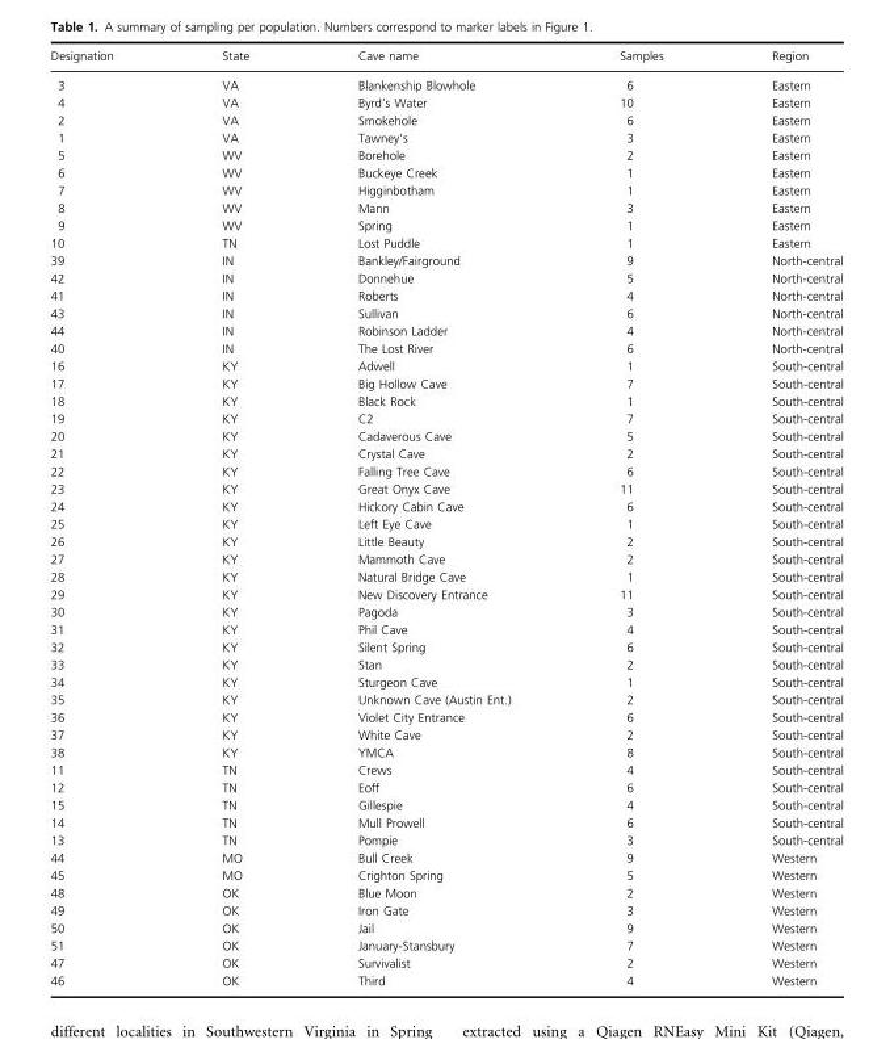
<table><thead><tr><td>Designation</td><td>State</td><td>Cave name</td><td>Samples</td><td>Region</td></tr></thead><tbody><tr><td>3</td><td>VA</td><td>Blankenship Blowhole</td><td>6</td><td>Eastern</td></tr><tr><td>4</td><td>VA</td><td>Byrd’s Water</td><td>10</td><td>Eastern</td></tr><tr><td>2</td><td>VA</td><td>Smokehole</td><td>6</td><td>Eastern</td></tr><tr><td>1</td><td>VA</td><td>Tawney’s</td><td>3</td><td>Eastern</td></tr><tr><td>5</td><td>WV</td><td>Borehole</td><td>2</td><td>Eastern</td></tr><tr><td>6</td><td>WV</td><td>Buckeye Creek</td><td>1</td><td>Eastern</td></tr><tr><td>7</td><td>WV</td><td>Higginbotham</td><td>1</td><td>Eastern</td></tr><tr><td>8</td><td>WV</td><td>Mann</td><td>3</td><td>Eastern</td></tr><tr><td>9</td><td>WV</td><td>Spring</td><td>1</td><td>Eastern</td></tr><tr><td>10</td><td>TN</td><td>Lost Puddle</td><td>1</td><td>Eastern</td></tr><tr><td>39</td><td>IN</td><td>Bankley/Fairground</td><td>9</td><td>North-central</td></tr><tr><td>42</td><td>IN</td><td>Donnehue</td><td>5</td><td>North-central</td></tr><tr><td>41</td><td>IN</td><td>Roberts</td><td>4</td><td>North-central</td></tr><tr><td>43</td><td>IN</td><td>Sullivan</td><td>6</td><td>North-central</td></tr><tr><td>44</td><td>IN</td><td>Robinson Ladder</td><td>4</td><td>North-central</td></tr><tr><td>40</td><td>IN</td><td>The Lost River</td><td>6</td><td>North-central</td></tr><tr><td>16</td><td>KY</td><td>Adwell</td><td>1</td><td>South-central</td></tr><tr><td>17</td><td>KY</td><td>Big Hollow Cave</td><td>7</td><td>South-central</td></tr><tr><td>18</td><td>KY</td><td>Black Rock</td><td>1</td><td>South-central</td></tr><tr><td>19</td><td>KY</td><td>C2</td><td>7</td><td>South-central</td></tr><tr><td>20</td><td>KY</td><td>Cadaverous Cave</td><td>5</td><td>South-central</td></tr><tr><td>21</td><td>KY</td><td>Crystal Cave</td><td>2</td><td>South-central</td></tr><tr><td>22</td><td>KY</td><td>Falling Tree Cave</td><td>6</td><td>South-central</td></tr><tr><td>23</td><td>KY</td><td>Great Onyx Cave</td><td>11</td><td>South-central</td></tr><tr><td>24</td><td>KY</td><td>Hickory Cabin Cave</td><td>6</td><td>South-central</td></tr><tr><td>25</td><td>KY</td><td>Left Eye Cave</td><td>1</td><td>South-central</td></tr><tr><td>26</td><td>KY</td><td>Little Beauty</td><td>2</td><td>South-central</td></tr><tr><td>27</td><td>KY</td><td>Mammoth Cave</td><td>2</td><td>South-central</td></tr><tr><td>28</td><td>KY</td><td>Natural Bridge Cave</td><td>1</td><td>South-central</td></tr><tr><td>29</td><td>KY</td><td>New Discovery Entrance</td><td>11</td><td>South-central</td></tr><tr><td>30</td><td>KY</td><td>Pagoda</td><td>3</td><td>South-central</td></tr><tr><td>31</td><td>KY</td><td>Phil Cave</td><td>4</td><td>South-central</td></tr><tr><td>32</td><td>KY</td><td>Silent Spring</td><td>6</td><td>South-central</td></tr><tr><td>33</td><td>KY</td><td>Stan</td><td>2</td><td>South-central</td></tr><tr><td>34</td><td>KY</td><td>Sturgeon Cave</td><td>1</td><td>South-central</td></tr><tr><td>35</td><td>KY</td><td>Unknown Cave (Austin Ent.)</td><td>2</td><td>South-central</td></tr><tr><td>36</td><td>KY</td><td>Violet City Entrance</td><td>6</td><td>South-central</td></tr><tr><td>37</td><td>KY</td><td>White Cave</td><td>2</td><td>South-central</td></tr><tr><td>38</td><td>KY</td><td>YMCA</td><td>8</td><td>South-central</td></tr><tr><td>11</td><td>TN</td><td>Crews</td><td>4</td><td>South-central</td></tr><tr><td>12</td><td>TN</td><td>Eoff</td><td>6</td><td>South-central</td></tr><tr><td>15</td><td>TN</td><td>Gillespie</td><td>4</td><td>South-central</td></tr><tr><td>14</td><td>TN</td><td>Mull Prowell</td><td>6</td><td>South-central</td></tr><tr><td>13</td><td>TN</td><td>Pompie</td><td>3</td><td>South-central</td></tr><tr><td>44</td><td>MO</td><td>Bull Creek</td><td>9</td><td>Western</td></tr><tr><td>45</td><td>MO</td><td>Crighton Spring</td><td>5</td><td>Western</td></tr><tr><td>48</td><td>OK</td><td>Blue Moon</td><td>2</td><td>Western</td></tr><tr><td>49</td><td>OK</td><td>Iron Gate</td><td>3</td><td>Western</td></tr><tr><td>50</td><td>OK</td><td>Jail</td><td>9</td><td>Western</td></tr><tr><td>51</td><td>OK</td><td>January-Stansbury</td><td>7</td><td>Western</td></tr><tr><td>47</td><td>OK</td><td>Survivalist</td><td>2</td><td>Western</td></tr><tr><td>46</td><td>OK</td><td>Third</td><td>4</td><td>Western</td></tr></tbody></table>